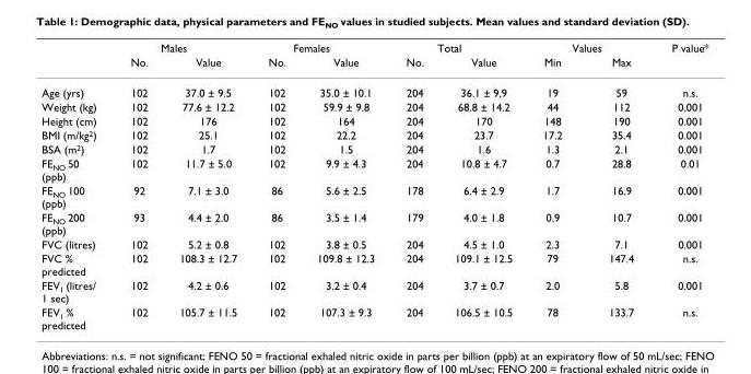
<table><thead><tr><td rowspan="2"></td><td colspan="2">Males</td><td colspan="2">Females</td><td colspan="2">Total</td><td colspan="2">Values</td><td rowspan="2">P value*</td></tr><tr><td>No.</td><td>Value</td><td>No.</td><td>Value</td><td>No.</td><td>Value</td><td>Min</td><td>Max</td></tr></thead><tbody><tr><td>Age (yrs)</td><td>102</td><td>37.0 ± 9.5</td><td>102</td><td>35.0 ± 10.1</td><td>204</td><td>36.1 ± 9,9</td><td>19</td><td>59</td><td>n.s.</td></tr><tr><td>Weight (kg)</td><td>102</td><td>77.6 ± 12.2</td><td>102</td><td>59.9 ± 9.8</td><td>204</td><td>68.8 ± 14.2</td><td>44</td><td>112</td><td>0.001</td></tr><tr><td>Height (cm)</td><td>102</td><td>176</td><td>102</td><td>164</td><td>204</td><td>170</td><td>148</td><td>190</td><td>0.001</td></tr><tr><td>BMI (m/kg<sup>2</sup>)</td><td>102</td><td>25.1</td><td>102</td><td>22.2</td><td>204</td><td>23.7</td><td>17.2</td><td>35.4</td><td>0.001</td></tr><tr><td>BSA (m<sup>2</sup>)</td><td>102</td><td>1.7</td><td>102</td><td>1.5</td><td>204</td><td>1.6</td><td>1.3</td><td>2.1</td><td>0.001</td></tr><tr><td>FE<sub>NO</sub> 50 (ppb)</td><td>102</td><td>11.7 ± 5.0</td><td>102</td><td>9.9 ± 4.3</td><td>204</td><td>10.8 ± 4.7</td><td>0.7</td><td>28.8</td><td>0.01</td></tr><tr><td>FE<sub>NO</sub> 100 (ppb)</td><td>92</td><td>7.1 ± 3.0</td><td>86</td><td>5.6 ± 2.5</td><td>178</td><td>6.4 ± 2.9</td><td>1.7</td><td>16.9</td><td>0.001</td></tr><tr><td>FE<sub>NO</sub> 200 (ppb)</td><td>93</td><td>4.4 ± 2.0</td><td>86</td><td>3.5 ± 1.4</td><td>179</td><td>4.0 ± 1.8</td><td>0.9</td><td>10.7</td><td>0.001</td></tr><tr><td>FVC (litres)</td><td>102</td><td>5.2 ± 0.8</td><td>102</td><td>3.8 ± 0.5</td><td>204</td><td>4.5 ± 1.0</td><td>2.3</td><td>7.1</td><td>0.001</td></tr><tr><td>FVC % predicted</td><td>102</td><td>108.3 ± 12.7</td><td>102</td><td>109.8 ± 12.3</td><td>204</td><td>109.1 ± 12.5</td><td>79</td><td>147.4</td><td>n.s.</td></tr><tr><td>FEV<sub>1</sub> (litres/ 1 sec)</td><td>102</td><td>4.2 ± 0.6</td><td>102</td><td>3.2 ± 0.4</td><td>204</td><td>3.7 ± 0.7</td><td>2.0</td><td>5.8</td><td>0.001</td></tr><tr><td>FEV<sub>1</sub> % predicted</td><td>102</td><td>105.7 ± 11.5</td><td>102</td><td>107.3 ± 9.3</td><td>204</td><td>106.5 ± 10.5</td><td>78</td><td>133.7</td><td>n.s.</td></tr></tbody></table>